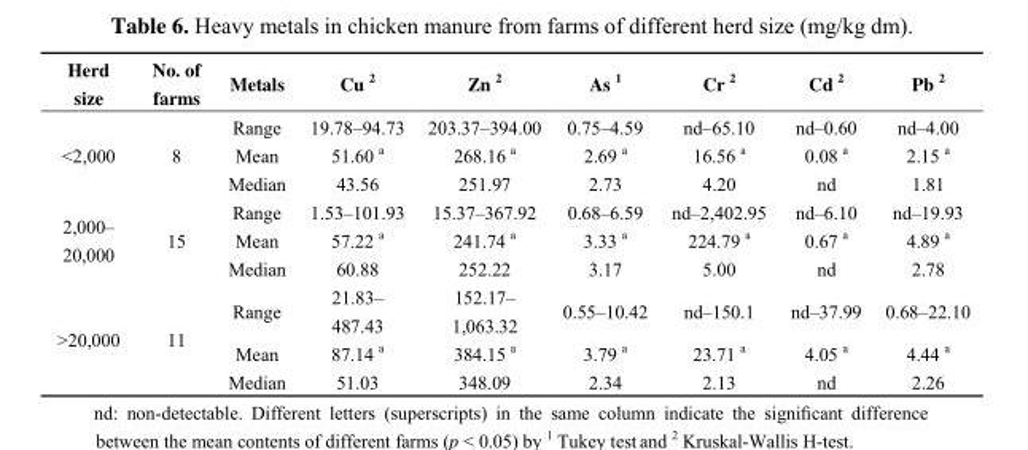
<table><thead><tr><td>Herd size</td><td>No. of farms</td><td>Metals</td><td>Cu <sup>2</sup></td><td>Zn <sup>2</sup></td><td>As <sup>1</sup></td><td>Cr <sup>2</sup></td><td>Cd <sup>2</sup></td><td>Pb <sup>2</sup></td></tr></thead><tbody><tr><td rowspan="3">&lt;2,000</td><td rowspan="3">8</td><td>Range</td><td>19.78–94.73</td><td>203.37–394.00</td><td>0.75–4.59</td><td>nd–65.10</td><td>nd–0.60</td><td>nd–4.00</td></tr><tr><td>Mean</td><td>51.60 <sup>a</sup></td><td>268.16 <sup>a</sup></td><td>2.69 <sup>a</sup></td><td>16.56 <sup>a</sup></td><td>0.08 <sup>a</sup></td><td>2.15 <sup>a</sup></td></tr><tr><td>Median</td><td>43.56</td><td>251.97</td><td>2.73</td><td>4.20</td><td>nd</td><td>1.81</td></tr><tr><td rowspan="3">2,000– 20,000</td><td rowspan="3">15</td><td>Range</td><td>1.53–101.93</td><td>15.37–367.92</td><td>0.68–6.59</td><td>nd–2,402.95</td><td>nd–6.10</td><td>nd–19.93</td></tr><tr><td>Mean</td><td>57.22 <sup>a</sup></td><td>241.74 <sup>a</sup></td><td>3.33 <sup>a</sup></td><td>224.79 <sup>a</sup></td><td>0.67 <sup>a</sup></td><td>4.89 <sup>a</sup></td></tr><tr><td>Median</td><td>60.88</td><td>252.22</td><td>3.17</td><td>5.00</td><td>nd</td><td>2.78</td></tr><tr><td rowspan="3">&gt;20,000</td><td rowspan="3">11</td><td>Range</td><td>21.83– 487.43</td><td>152.17– 1,063.32</td><td>0.55–10.42</td><td>nd–150.1</td><td>nd–37.99</td><td>0.68–22.10</td></tr><tr><td>Mean</td><td>87.14 <sup>a</sup></td><td>384.15 <sup>a</sup></td><td>3.79 <sup>a</sup></td><td>23.71 <sup>a</sup></td><td>4.05 <sup>a</sup></td><td>4.44 <sup>a</sup></td></tr><tr><td>Median</td><td>51.03</td><td>348.09</td><td>2.34</td><td>2.13</td><td>nd</td><td>2.26</td></tr></tbody></table>